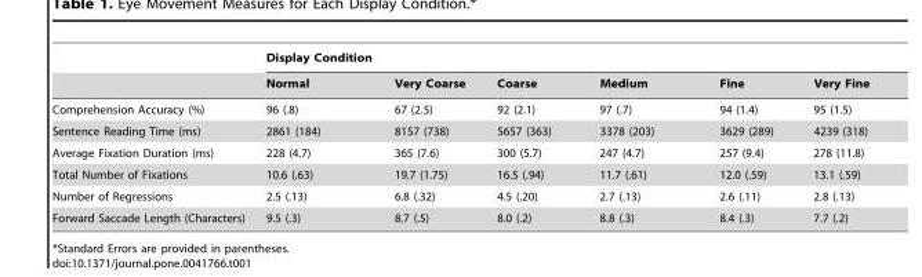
<table><thead><tr><td rowspan="2"></td><td colspan="6">Display Condition</td></tr><tr><td>Normal</td><td>Very Coarse</td><td>Coarse</td><td>Medium</td><td>Fine</td><td>Very Fine</td></tr></thead><tbody><tr><td>Comprehension Accuracy (%)</td><td>96 (.8)</td><td>67 (2.5)</td><td>92 (2.1)</td><td>97 (.7)</td><td>94 (1.4)</td><td>95 (1.5)</td></tr><tr><td>Sentence Reading Time (ms)</td><td>2861 (184)</td><td>8157 (738)</td><td>5657 (363)</td><td>3378 (203)</td><td>3629 (289)</td><td>4239 (318)</td></tr><tr><td>Average Fixation Duration (ms)</td><td>228 (4.7)</td><td>365 (7.6)</td><td>300 (5.7)</td><td>247 (4.7)</td><td>257 (9.4)</td><td>278 (11.8)</td></tr><tr><td>Total Number of Fixations</td><td>10.6 (.63)</td><td>19.7 (1.75)</td><td>16.5 (.94)</td><td>11.7 (.61)</td><td>12.0 (.59)</td><td>13.1 (.59)</td></tr><tr><td>Number of Regressions</td><td>2.5 (.13)</td><td>6.8 (.32)</td><td>4.5 (.20)</td><td>2.7 (.13)</td><td>2.6 (.11)</td><td>2.8 (.13)</td></tr><tr><td>Forward Saccade Length (Characters)</td><td>9.5 (.3)</td><td>8.7 (.5)</td><td>8.0 (.2)</td><td>8.8 (.3)</td><td>8.4 (.3)</td><td>7.7 (.2)</td></tr></tbody></table>